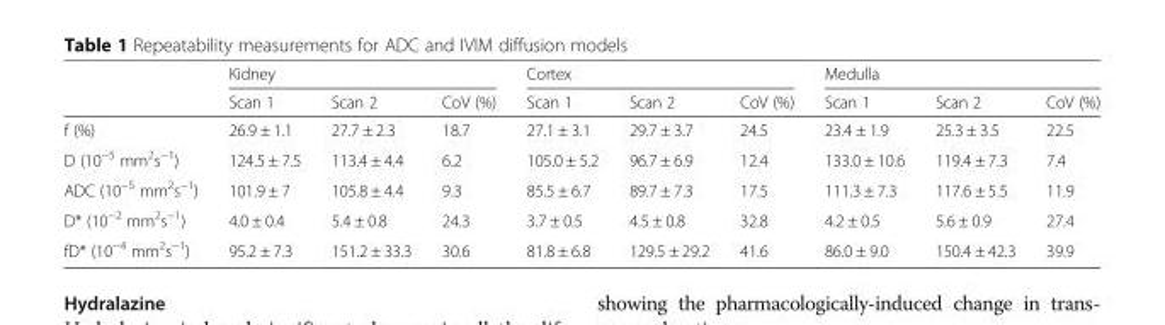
<table><thead><tr><td rowspan="2"></td><td colspan="3">Kidney</td><td colspan="3">Cortex</td><td colspan="3">Medulla</td></tr><tr><td>Scan 1</td><td>Scan 2</td><td>CoV (%)</td><td>Scan 1</td><td>Scan 2</td><td>CoV (%)</td><td>Scan 1</td><td>Scan 2</td><td>CoV (%)</td></tr></thead><tbody><tr><td>f (%)</td><td>26.9 ± 1.1</td><td>27.7 ± 2.3</td><td>18.7</td><td>27.1 ± 3.1</td><td>29.7 ± 3.7</td><td>24.5</td><td>23.4 ± 1.9</td><td>25.3 ± 3.5</td><td>22.5</td></tr><tr><td>D (10<sup>−5</sup> mm<sup>2</sup>s<sup>−1</sup>)</td><td>124.5 ± 7.5</td><td>113.4 ± 4.4</td><td>6.2</td><td>105.0 ± 5.2</td><td>96.7 ± 6.9</td><td>12.4</td><td>133.0 ± 10.6</td><td>119.4 ± 7.3</td><td>7.4</td></tr><tr><td>ADC (10<sup>−5</sup> mm<sup>2</sup>s<sup>−1</sup>)</td><td>101.9 ± 7</td><td>105.8 ± 4.4</td><td>9.3</td><td>85.5 ± 6.7</td><td>89.7 ± 7.3</td><td>17.5</td><td>111.3 ± 7.3</td><td>117.6 ± 5.5</td><td>11.9</td></tr><tr><td>D* (10<sup>−2</sup> mm<sup>2</sup>s<sup>−1</sup>)</td><td>4.0 ± 0.4</td><td>5.4 ± 0.8</td><td>24.3</td><td>3.7 ± 0.5</td><td>4.5 ± 0.8</td><td>32.8</td><td>4.2 ± 0.5</td><td>5.6 ± 0.9</td><td>27.4</td></tr><tr><td>fD* (10<sup>−4</sup> mm<sup>2</sup>s<sup>−1</sup>)</td><td>95.2 ± 7.3</td><td>151.2 ± 33.3</td><td>30.6</td><td>81.8 ± 6.8</td><td>129.5 ± 29.2</td><td>41.6</td><td>86.0 ± 9.0</td><td>150.4 ± 42.3</td><td>39.9</td></tr></tbody></table>